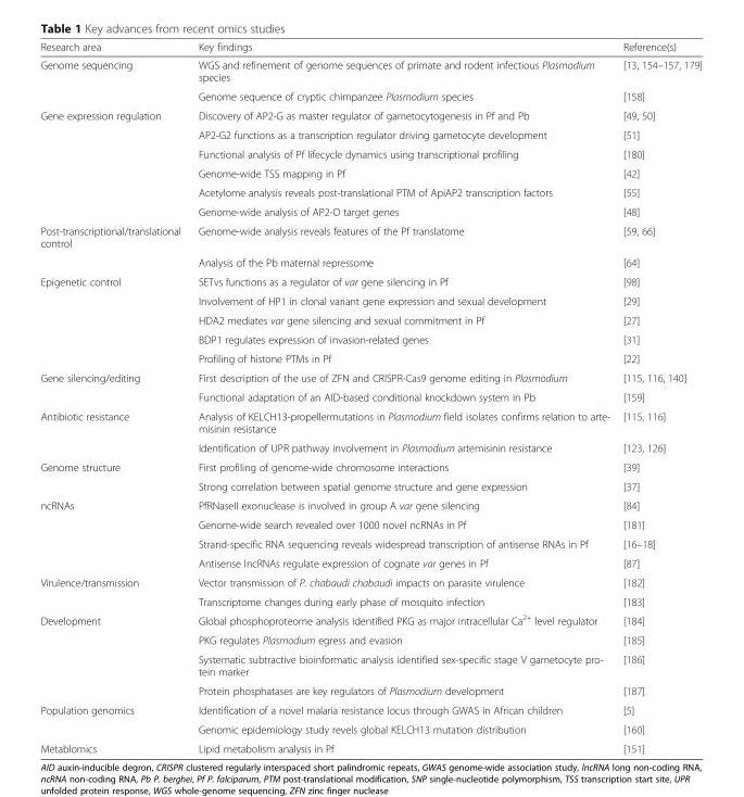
<table><thead><tr><td>Research area</td><td>Key findings</td><td>Reference(s)</td></tr></thead><tbody><tr><td rowspan="2">Genome sequencing</td><td>WGS and refinement of genome sequences of primate and rodent infectious Plasmodium species</td><td>[13, 154–157, 179]</td></tr><tr><td>Genome sequence of cryptic chimpanzee Plasmodium species</td><td>[158]</td></tr><tr><td rowspan="6">Gene expression regulation</td><td>Discovery of AP2-G as master regulator of gametocytogenesis in Pf and Pb</td><td>[49, 50]</td></tr><tr><td>AP2-G2 functions as a transcription regulator driving gametocyte development</td><td>[51]</td></tr><tr><td>Functional analysis of Pf lifecycle dynamics using transcriptional profiling</td><td>[180]</td></tr><tr><td>Genome-wide TSS mapping in Pf</td><td>[42]</td></tr><tr><td>Acetylome analysis reveals post-translational PTM of ApiAP2 transcription factors</td><td>[55]</td></tr><tr><td>Genome-wide analysis of AP2-O target genes</td><td>[48]</td></tr><tr><td rowspan="2">Post-transcriptional/translational control</td><td>Genome-wide analysis reveals features of the Pf translatome</td><td>[59, 66]</td></tr><tr><td>Analysis of the Pb maternal repressome</td><td>[64]</td></tr><tr><td rowspan="5">Epigenetic control</td><td>SETvs functions as a regulator of var gene silencing in Pf</td><td>[98]</td></tr><tr><td>Involvement of HP1 in clonal variant gene expression and sexual development</td><td>[29]</td></tr><tr><td>HDA2 mediates var gene silencing and sexual commitment in Pf</td><td>[27]</td></tr><tr><td>BDP1 regulates expression of invasion-related genes</td><td>[31]</td></tr><tr><td>Profiling of histone PTMs in Pf</td><td>[22]</td></tr><tr><td rowspan="2">Gene silencing/editing</td><td>First description of the use of ZFN and CRISPR-Cas9 genome editing in Plasmodium</td><td>[115, 116, 140]</td></tr><tr><td>Functional adaptation of an AID-based conditional knockdown system in Pb</td><td>[159]</td></tr><tr><td rowspan="2">Antibiotic resistance</td><td>Analysis of KELCH13-propellermutations in Plasmodium field isolates confirms relation to arte- misinin resistance</td><td>[115, 116]</td></tr><tr><td>Identification of UPR pathway involvement in Plasmodium artemisinin resistance</td><td>[123, 126]</td></tr><tr><td rowspan="2">Genome structure</td><td>First profiling of genome-wide chromosome interactions</td><td>[39]</td></tr><tr><td>Strong correlation between spatial genome structure and gene expression</td><td>[37]</td></tr><tr><td rowspan="4">ncRNAs</td><td>PfRNaseII exonuclease is involved in group A var gene silencing</td><td>[84]</td></tr><tr><td>Genome-wide search revealed over 1000 novel ncRNAs in Pf</td><td>[181]</td></tr><tr><td>Strand-specific RNA sequencing reveals widespread transcription of antisense RNAs in Pf</td><td>[16–18]</td></tr><tr><td>Antisense lncRNAs regulate expression of cognate var genes in Pf</td><td>[87]</td></tr><tr><td rowspan="2">Virulence/transmission</td><td>Vector transmission of P. chabaudi chabaudi impacts on parasite virulence</td><td>[182]</td></tr><tr><td>Transcriptome changes during early phase of mosquito infection</td><td>[183]</td></tr><tr><td rowspan="4">Development</td><td>Global phosphoproteome analysis identified PKG as major intracellular Ca<sup>2+</sup> level regulator</td><td>[184]</td></tr><tr><td>PKG regulates Plasmodium egress and evasion</td><td>[185]</td></tr><tr><td>Systematic subtractive bioinformatic analysis identified sex-specific stage V gametocyte pro- tein marker</td><td>[186]</td></tr><tr><td>Protein phosphatases are key regulators of Plasmodium development</td><td>[187]</td></tr><tr><td rowspan="2">Population genomics</td><td>Identification of a novel malaria resistance locus through GWAS in African children</td><td>[5]</td></tr><tr><td>Genomic epidemiology study revels global KELCH13 mutation distribution</td><td>[160]</td></tr><tr><td>Metablomics</td><td>Lipid metabolism analysis in Pf</td><td>[151]</td></tr></tbody></table>